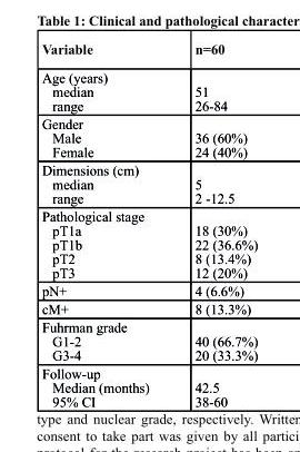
<table><thead><tr><td>Variable</td><td>n=60</td></tr></thead><tbody><tr><td>Age (years) median range</td><td>51 26-84</td></tr><tr><td>Gender Male Female</td><td>36 (60%) 24 (40%)</td></tr><tr><td>Dimensions (cm) median range</td><td>5 2 -12.5</td></tr><tr><td>Pathological stage pT1a pT1b pT2 pT3</td><td>18 (30%) 22 (36.6%) 8 (13.4%) 12 (20%)</td></tr><tr><td>pN+</td><td>4 (6.6%)</td></tr><tr><td>cM+</td><td>8 (13.3%)</td></tr><tr><td>Fuhrman grade G1-2 G3-4</td><td>40 (66.7%) 20 (33.3%)</td></tr><tr><td>Follow-up Median (months) 95% CI</td><td>42.5 38-60</td></tr></tbody></table>